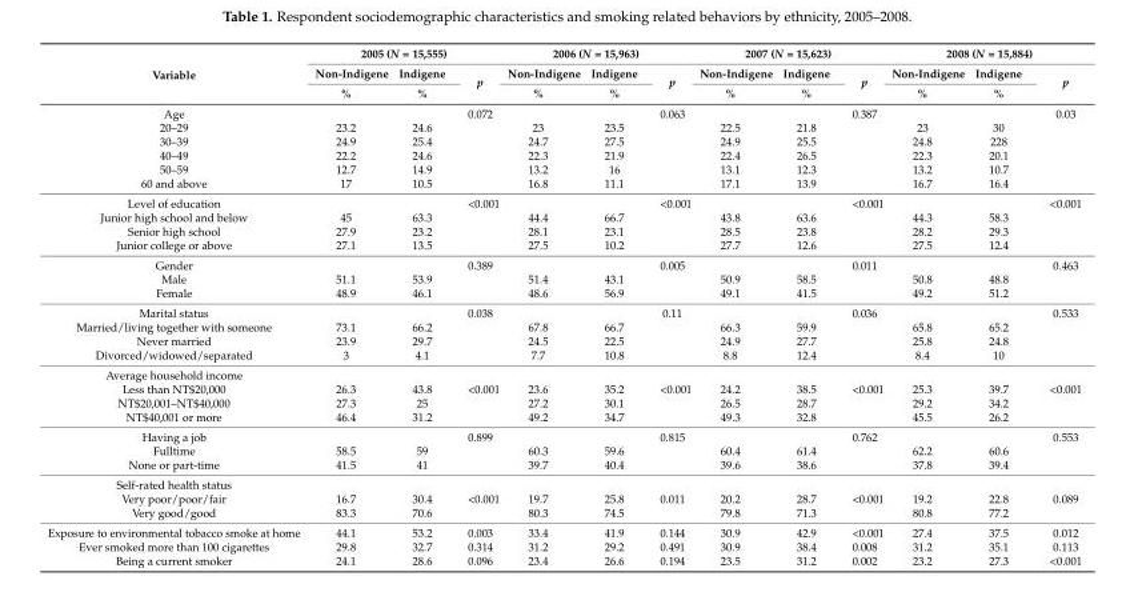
<table><thead><tr><td rowspan="3">Variable</td><td colspan="3">2005 (N = 15,555)</td><td colspan="3">2006 (N = 15,963)</td><td colspan="3">2007 (N = 15,623)</td><td colspan="3">2008 (N = 15,884)</td></tr><tr><td rowspan="2">Non-Indigene %</td><td rowspan="2">Indigene %</td><td rowspan="2">p</td><td rowspan="2">Non-Indigene %</td><td rowspan="2">Indigene %</td><td rowspan="2">p</td><td rowspan="2">Non-Indigene %</td><td rowspan="2">Indigene %</td><td rowspan="2">p</td><td rowspan="2">Non-Indigene %</td><td rowspan="2">Indigene %</td><td rowspan="2">p</td></tr><tr></tr></thead><tbody><tr><td>Age</td><td></td><td></td><td>0.072</td><td></td><td></td><td>0.063</td><td></td><td></td><td>0.387</td><td></td><td></td><td>0.03</td></tr><tr><td>20–29</td><td>23.2</td><td>24.6</td><td></td><td>23</td><td>23.5</td><td></td><td>22.5</td><td>21.8</td><td></td><td>23</td><td>30</td><td></td></tr><tr><td>30–39</td><td>24.9</td><td>25.4</td><td></td><td>24.7</td><td>27.5</td><td></td><td>24.9</td><td>25.5</td><td></td><td>24.8</td><td>228</td><td></td></tr><tr><td>40–49</td><td>22.2</td><td>24.6</td><td></td><td>22.3</td><td>21.9</td><td></td><td>22.4</td><td>26.5</td><td></td><td>22.3</td><td>20.1</td><td></td></tr><tr><td>50–59</td><td>12.7</td><td>14.9</td><td></td><td>13.2</td><td>16</td><td></td><td>13.1</td><td>12.3</td><td></td><td>13.2</td><td>10.7</td><td></td></tr><tr><td>60 and above</td><td>17</td><td>10.5</td><td></td><td>16.8</td><td>11.1</td><td></td><td>17.1</td><td>13.9</td><td></td><td>16.7</td><td>16.4</td><td></td></tr><tr><td>Level of education</td><td></td><td></td><td>&lt;0.001</td><td></td><td></td><td>&lt;0.001</td><td></td><td></td><td>&lt;0.001</td><td></td><td></td><td>&lt;0.001</td></tr><tr><td>Junior high school and below</td><td>45</td><td>63.3</td><td></td><td>44.4</td><td>66.7</td><td></td><td>43.8</td><td>63.6</td><td></td><td>44.3</td><td>58.3</td><td></td></tr><tr><td>Senior high school</td><td>27.9</td><td>23.2</td><td></td><td>28.1</td><td>23.1</td><td></td><td>28.5</td><td>23.8</td><td></td><td>28.2</td><td>29.3</td><td></td></tr><tr><td>Junior college or above</td><td>27.1</td><td>13.5</td><td></td><td>27.5</td><td>10.2</td><td></td><td>27.7</td><td>12.6</td><td></td><td>27.5</td><td>12.4</td><td></td></tr><tr><td>Gender</td><td></td><td></td><td>0.389</td><td></td><td></td><td>0.005</td><td></td><td></td><td>0.011</td><td></td><td></td><td>0.463</td></tr><tr><td>Male</td><td>51.1</td><td>53.9</td><td></td><td>51.4</td><td>43.1</td><td></td><td>50.9</td><td>58.5</td><td></td><td>50.8</td><td>48.8</td><td></td></tr><tr><td>Female</td><td>48.9</td><td>46.1</td><td></td><td>48.6</td><td>56.9</td><td></td><td>49.1</td><td>41.5</td><td></td><td>49.2</td><td>51.2</td><td></td></tr><tr><td>Marital status</td><td></td><td></td><td>0.038</td><td></td><td></td><td>0.11</td><td></td><td></td><td>0.036</td><td></td><td></td><td>0.533</td></tr><tr><td>Married/living together with someone</td><td>73.1</td><td>66.2</td><td></td><td>67.8</td><td>66.7</td><td></td><td>66.3</td><td>59.9</td><td></td><td>65.8</td><td>65.2</td><td></td></tr><tr><td>Never married</td><td>23.9</td><td>29.7</td><td></td><td>24.5</td><td>22.5</td><td></td><td>24.9</td><td>27.7</td><td></td><td>25.8</td><td>24.8</td><td></td></tr><tr><td>Divorced/widowed/separated</td><td>3</td><td>4.1</td><td></td><td>7.7</td><td>10.8</td><td></td><td>8.8</td><td>12.4</td><td></td><td>8.4</td><td>10</td><td></td></tr><tr><td colspan="13">Average household income</td></tr><tr><td>Less than NT$20,000</td><td>26.3</td><td>43.8</td><td>&lt;0.001</td><td>23.6</td><td>35.2</td><td>&lt;0.001</td><td>24.2</td><td>38.5</td><td>&lt;0.001</td><td>25.3</td><td>39.7</td><td>&lt;0.001</td></tr><tr><td>NT$20,001–NT$40,000</td><td>27.3</td><td>25</td><td></td><td>27.2</td><td>30.1</td><td></td><td>26.5</td><td>28.7</td><td></td><td>29.2</td><td>34.2</td><td></td></tr><tr><td>NT$40,001 or more</td><td>46.4</td><td>31.2</td><td></td><td>49.2</td><td>34.7</td><td></td><td>49.3</td><td>32.8</td><td></td><td>45.5</td><td>26.2</td><td></td></tr><tr><td>Having a job</td><td></td><td></td><td>0.899</td><td></td><td></td><td>0.815</td><td></td><td></td><td>0.762</td><td></td><td></td><td>0.553</td></tr><tr><td>Fulltime</td><td>58.5</td><td>59</td><td></td><td>60.3</td><td>59.6</td><td></td><td>60.4</td><td>61.4</td><td></td><td>62.2</td><td>60.6</td><td></td></tr><tr><td>None or part-time</td><td>41.5</td><td>41</td><td></td><td>39.7</td><td>40.4</td><td></td><td>39.6</td><td>38.6</td><td></td><td>37.8</td><td>39.4</td><td></td></tr><tr><td colspan="13">Self-rated health status</td></tr><tr><td>Very poor/poor/fair</td><td>16.7</td><td>30.4</td><td>&lt;0.001</td><td>19.7</td><td>25.8</td><td>0.011</td><td>20.2</td><td>28.7</td><td>&lt;0.001</td><td>19.2</td><td>22.8</td><td>0.089</td></tr><tr><td>Very good/good</td><td>83.3</td><td>70.6</td><td></td><td>80.3</td><td>74.5</td><td></td><td>79.8</td><td>71.3</td><td></td><td>80.8</td><td>77.2</td><td></td></tr><tr><td>Exposure to environmental tobacco smoke at home</td><td>44.1</td><td>53.2</td><td>0.003</td><td>33.4</td><td>41.9</td><td>0.144</td><td>30.9</td><td>42.9</td><td>&lt;0.001</td><td>27.4</td><td>37.5</td><td>0.012</td></tr><tr><td>Ever smoked more than 100 cigarettes</td><td>29.8</td><td>32.7</td><td>0.314</td><td>31.2</td><td>29.2</td><td>0.491</td><td>30.9</td><td>38.4</td><td>0.008</td><td>31.2</td><td>35.1</td><td>0.113</td></tr><tr><td>Being a current smoker</td><td>24.1</td><td>28.6</td><td>0.096</td><td>23.4</td><td>26.6</td><td>0.194</td><td>23.5</td><td>31.2</td><td>0.002</td><td>23.2</td><td>27.3</td><td>&lt;0.001</td></tr></tbody></table>